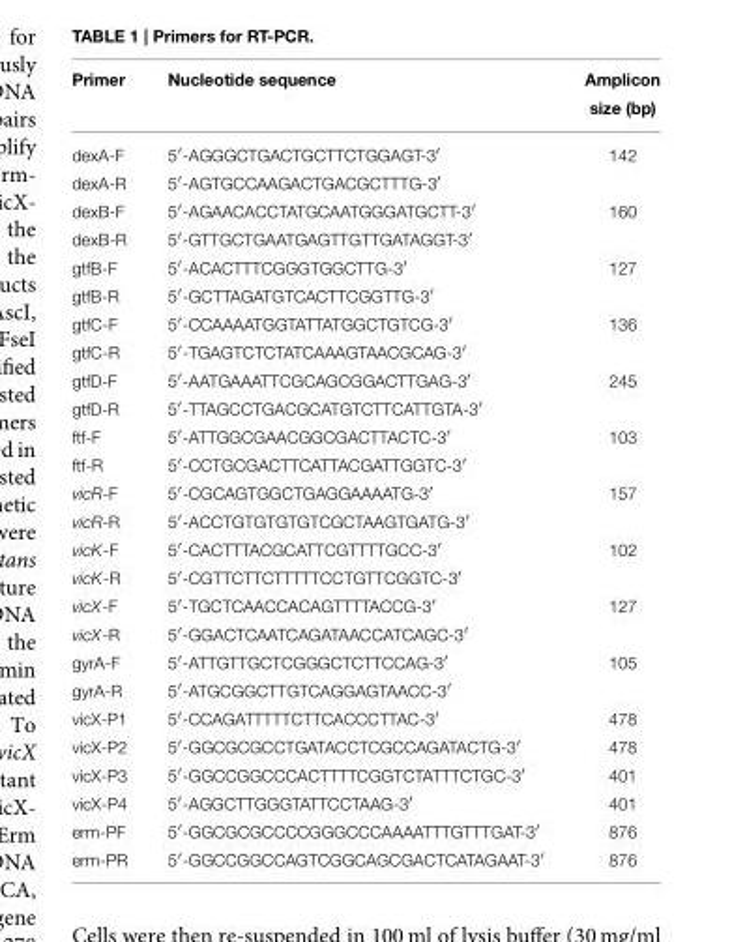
<table><thead><tr><td>Primer</td><td>Nucleotide sequence</td><td>Amplicon size (bp)</td></tr></thead><tbody><tr><td>dexA-F</td><td>5′-AGGGCTGACTGCTTCTGGAGT-3′</td><td>142</td></tr><tr><td>dexA-R</td><td>5′-AGTGCCAAGACTGACGCTTTG-3′</td><td></td></tr><tr><td>dexB-F</td><td>5′-AGAACACCTATGCAATGGGATGCTT-3′</td><td>160</td></tr><tr><td>dexB-R</td><td>5′-GTTGCTGAATGAGTTGTTGATAGGT-3′</td><td></td></tr><tr><td>gtfB-F</td><td>5′-ACACTTTCGGGTGGCTTG-3′</td><td>127</td></tr><tr><td>gtfB-R</td><td>5′-GCTTAGATGTCACTTCGGTTG-3′</td><td></td></tr><tr><td>gtfC-F</td><td>5′-CCAAAATGGTATTATGGCTGTCG-3′</td><td>136</td></tr><tr><td>gtfC-R</td><td>5′-TGAGTCTCTATCAAAGTAACGCAG-3′</td><td></td></tr><tr><td>gtfD-F</td><td>5′-AATGAAATTCGCAGCGGACTTGAG-3′</td><td>245</td></tr><tr><td>gtfD-R</td><td>5′-TTAGCCTGACGCATGTCTTCATTGTA-3′</td><td></td></tr><tr><td>ftf-F</td><td>5′-ATTGGCGAACGGCGACTTACTC-3′</td><td>103</td></tr><tr><td>ftf-R</td><td>5′-CCTGCGACTTCATTACGATTGGTC-3′</td><td></td></tr><tr><td>vicR-F</td><td>5′-CGCAGTGGCTGAGGAAAATG-3′</td><td>157</td></tr><tr><td>vicR-R</td><td>5′-ACCTGTGTGTGTCGCTAAGTGATG-3′</td><td></td></tr><tr><td>vicK-F</td><td>5′-CACTTTACGCATTCGTTTTGCC-3′</td><td>102</td></tr><tr><td>vicK-R</td><td>5′-CGTTCTTCTTTTTCCTGTTCGGTC-3′</td><td></td></tr><tr><td>vicX-F</td><td>5′-TGCTCAACCACAGTTTTACCG-3′</td><td>127</td></tr><tr><td>vicX-R</td><td>5′-GGACTCAATCAGATAACCATCAGC-3′</td><td></td></tr><tr><td>gyrA-F</td><td>5′-ATTGTTGCTCGGGCTCTTCCAG-3′</td><td>105</td></tr><tr><td>gyrA-R</td><td>5′-ATGCGGCTTGTCAGGAGTAACC-3′</td><td></td></tr><tr><td>vicX-P1</td><td>5′-CCAGATTTTTCTTCACCCTTAC-3′</td><td>478</td></tr><tr><td>vicX-P2</td><td>5′-GGCGCGCCTGATACCTCGCCAGATACTG-3′</td><td>478</td></tr><tr><td>vicX-P3</td><td>5′-GGCCGGCCCACTTTTCGGTCTATTTCTGC-3′</td><td>401</td></tr><tr><td>vicX-P4</td><td>5′-AGGCTTGGGTATTCCTAAG-3′</td><td>401</td></tr><tr><td>erm-PF</td><td>5′-GGCGCGCCCCGGGCCCAAAATTTGTTTGAT-3′</td><td>876</td></tr><tr><td>erm-PR</td><td>5′-GGCCGGCCAGTCGGCAGCGACTCATAGAAT-3′</td><td>876</td></tr></tbody></table>